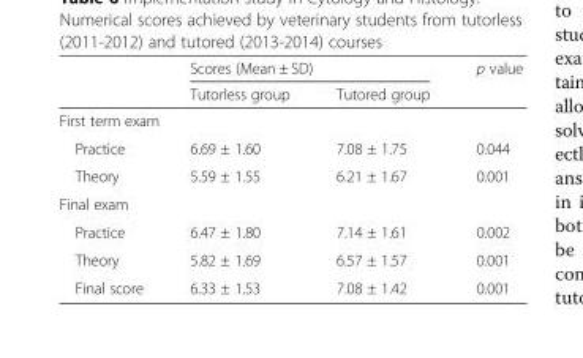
<table><thead><tr><td rowspan="2"></td><td colspan="2">Scores (Mean ± SD)</td><td rowspan="2">p value</td></tr><tr><td>Tutorless group</td><td>Tutored group</td></tr></thead><tbody><tr><td colspan="4">First term exam</td></tr><tr><td>Practice</td><td>6.69 ± 1.60</td><td>7.08 ± 1.75</td><td>0.044</td></tr><tr><td>Theory</td><td>5.59 ± 1.55</td><td>6.21 ± 1.67</td><td>0.001</td></tr><tr><td colspan="4">Final exam</td></tr><tr><td>Practice</td><td>6.47 ± 1.80</td><td>7.14 ± 1.61</td><td>0.002</td></tr><tr><td>Theory</td><td>5.82 ± 1.69</td><td>6.57 ± 1.57</td><td>0.001</td></tr><tr><td>Final score</td><td>6.33 ± 1.53</td><td>7.08 ± 1.42</td><td>0.001</td></tr></tbody></table>